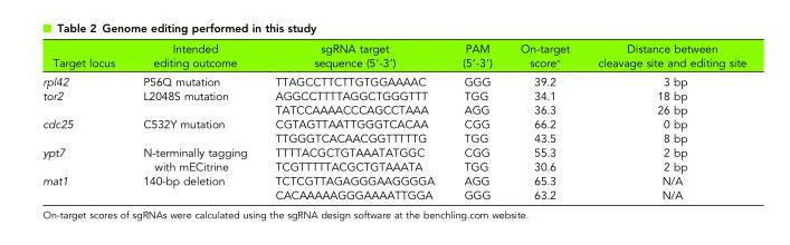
<table><thead><tr><td>Target locus</td><td>Intended editing outcome</td><td>sgRNA target sequence (5′-3′)</td><td>PAM (5′-3′)</td><td>On-target score*</td><td>Distance between cleavage site and editing site</td></tr></thead><tbody><tr><td>rpl42</td><td>P56Q mutation</td><td>TTAGCCTTCTTGTGGAAAAC</td><td>GGG</td><td>39.2</td><td>3 bp</td></tr><tr><td rowspan="2">tor2</td><td rowspan="2">L2048S mutation</td><td>AGGCCTTTTAGGCTGGGTTT</td><td>TGG</td><td>34.1</td><td>18 bp</td></tr><tr><td>TATCCAAAACCCAGCCTAAA</td><td>AGG</td><td>36.3</td><td>26 bp</td></tr><tr><td rowspan="2">cdc25</td><td rowspan="2">C532Y mutation</td><td>CGTAGTTAATTGGGTCACAA</td><td>CGG</td><td>66.2</td><td>0 bp</td></tr><tr><td>TTGGGTCACAACGGTTTTTG</td><td>TGG</td><td>43.5</td><td>8 bp</td></tr><tr><td rowspan="2">ypt7</td><td rowspan="2">N-terminally tagging with mECitrine</td><td>TTTTACGCTGTAAATATGGC</td><td>CGG</td><td>55.3</td><td>2 bp</td></tr><tr><td>TCGTTTTTACGCTGTAAATA</td><td>TGG</td><td>30.6</td><td>2 bp</td></tr><tr><td rowspan="2">mat1</td><td rowspan="2">140-bp deletion</td><td>TCTCGTTAGAGGGAAGGGGA</td><td>AGG</td><td>65.3</td><td>N/A</td></tr><tr><td>CACAAAAAGGGAAAATTGGA</td><td>GGG</td><td>63.2</td><td>N/A</td></tr></tbody></table>